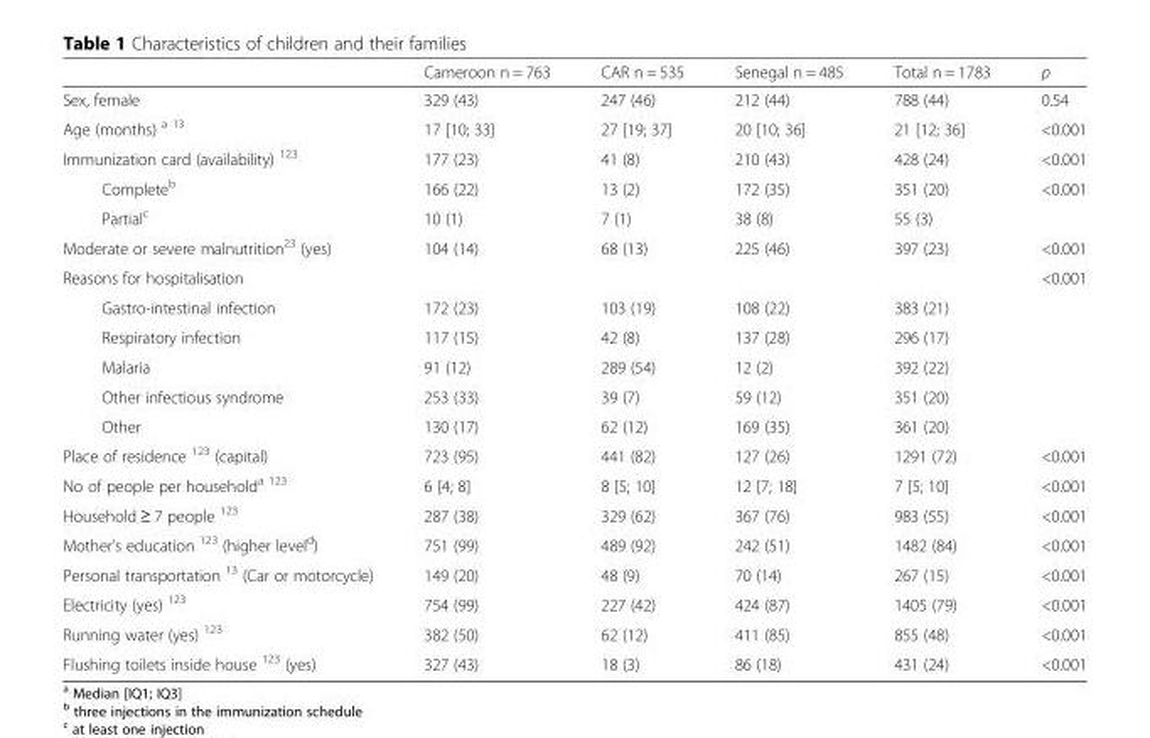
<table><thead><tr><td></td><td>Cameroon n = 763</td><td>CAR n = 535</td><td>Senegal n = 485</td><td>Total n = 1783</td><td>p</td></tr></thead><tbody><tr><td>Sex, female</td><td>329 (43)</td><td>247 (46)</td><td>212 (44)</td><td>788 (44)</td><td>0.54</td></tr><tr><td>Age (months) <sup>a 13</sup></td><td>17 [10; 33]</td><td>27 [19; 37]</td><td>20 [10; 36]</td><td>21 [12; 36]</td><td>&lt;0.001</td></tr><tr><td>Immunization card (availability) <sup>123</sup></td><td>177 (23)</td><td>41 (8)</td><td>210 (43)</td><td>428 (24)</td><td>&lt;0.001</td></tr><tr><td>Complete<sup>b</sup></td><td>166 (22)</td><td>13 (2)</td><td>172 (35)</td><td>351 (20)</td><td>&lt;0.001</td></tr><tr><td>Partial<sup>c</sup></td><td>10 (1)</td><td>7 (1)</td><td>38 (8)</td><td>55 (3)</td><td></td></tr><tr><td>Moderate or severe malnutrition<sup>23</sup> (yes)</td><td>104 (14)</td><td>68 (13)</td><td>225 (46)</td><td>397 (23)</td><td>&lt;0.001</td></tr><tr><td>Reasons for hospitalisation</td><td></td><td></td><td></td><td></td><td>&lt;0.001</td></tr><tr><td>Gastro-intestinal infection</td><td>172 (23)</td><td>103 (19)</td><td>108 (22)</td><td>383 (21)</td><td></td></tr><tr><td>Respiratory infection</td><td>117 (15)</td><td>42 (8)</td><td>137 (28)</td><td>296 (17)</td><td></td></tr><tr><td>Malaria</td><td>91 (12)</td><td>289 (54)</td><td>12 (2)</td><td>392 (22)</td><td></td></tr><tr><td>Other infectious syndrome</td><td>253 (33)</td><td>39 (7)</td><td>59 (12)</td><td>351 (20)</td><td></td></tr><tr><td>Other</td><td>130 (17)</td><td>62 (12)</td><td>169 (35)</td><td>361 (20)</td><td></td></tr><tr><td>Place of residence <sup>123</sup> (capital)</td><td>723 (95)</td><td>441 (82)</td><td>127 (26)</td><td>1291 (72)</td><td>&lt;0.001</td></tr><tr><td>No of people per household<sup>a 123</sup></td><td>6 [4; 8]</td><td>8 [5; 10]</td><td>12 [7; 18]</td><td>7 [5; 10]</td><td>&lt;0.001</td></tr><tr><td>Household ≥ 7 people <sup>123</sup></td><td>287 (38)</td><td>329 (62)</td><td>367 (76)</td><td>983 (55)</td><td>&lt;0.001</td></tr><tr><td>Mother’s education <sup>123</sup> (higher level<sup>d</sup>)</td><td>751 (99)</td><td>489 (92)</td><td>242 (51)</td><td>1482 (84)</td><td>&lt;0.001</td></tr><tr><td>Personal transportation <sup>13</sup> (Car or motorcycle)</td><td>149 (20)</td><td>48 (9)</td><td>70 (14)</td><td>267 (15)</td><td>&lt;0.001</td></tr><tr><td>Electricity (yes) <sup>123</sup></td><td>754 (99)</td><td>227 (42)</td><td>424 (87)</td><td>1405 (79)</td><td>&lt;0.001</td></tr><tr><td>Running water (yes) <sup>123</sup></td><td>382 (50)</td><td>62 (12)</td><td>411 (85)</td><td>855 (48)</td><td>&lt;0.001</td></tr><tr><td>Flushing toilets inside house <sup>123</sup> (yes)</td><td>327 (43)</td><td>18 (3)</td><td>86 (18)</td><td>431 (24)</td><td>&lt;0.001</td></tr></tbody></table>